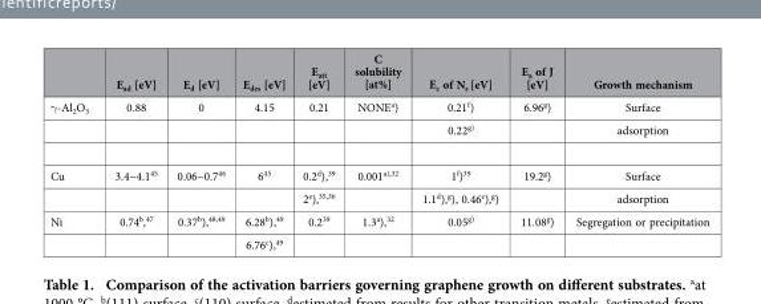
<table><thead><tr><td></td><td>E<sub>ad</sub> [eV]</td><td>E<sub>d</sub> [eV]</td><td>E<sub>des</sub> [eV]</td><td>E<sub>att</sub> [eV]</td><td>C solubility [at%]</td><td>E<sub>c</sub> of N<sub>s</sub> [eV]</td><td>E<sub>a</sub> of J [eV]</td><td>Growth mechanism</td></tr></thead><tbody><tr><td rowspan="2">γ -Al<sub>2</sub>O<sub>3</sub></td><td>0.88</td><td>0</td><td>4.15</td><td>0.21</td><td>NONE<sup>a</sup>)</td><td>0.21<sup>f</sup>)</td><td>6.96<sup>g</sup>)</td><td>Surface</td></tr><tr><td></td><td></td><td></td><td></td><td></td><td>0.22<sup>g)</sup></td><td></td><td>adsorption</td></tr><tr><td rowspan="2">Cu</td><td>3.4~4.1<sup>45</sup></td><td>0.06~0.7<sup>46</sup></td><td>6<sup>45</sup></td><td>0.2<sup>d</sup>),<sup>39</sup></td><td>0.001<sup>a),32</sup></td><td>1<sup>f</sup>)<sup>39</sup></td><td>19.2<sup>g</sup>)</td><td>Surface</td></tr><tr><td></td><td></td><td></td><td>2<sup>e</sup>),<sup>35</sup>,<sup>36</sup></td><td></td><td>1.1<sup>d</sup>),<sup>g</sup>), 0.46<sup>e</sup>),<sup>g</sup>)</td><td></td><td>adsorption</td></tr><tr><td rowspan="2">Ni</td><td>0.74<sup>b</sup>,<sup>47</sup></td><td>0.37<sup>b</sup>),<sup>48</sup>,<sup>49</sup></td><td>6.28<sup>b</sup>),<sup>49</sup></td><td>0.2<sup>39</sup></td><td>1.3<sup>a</sup>),<sup>32</sup></td><td>0.05<sup>g)</sup></td><td>11.08<sup>g</sup>)</td><td>Segregation or precipitation</td></tr><tr><td></td><td></td><td>6.76<sup>c</sup>),<sup>49</sup></td><td></td><td></td><td></td><td></td><td></td></tr></tbody></table>